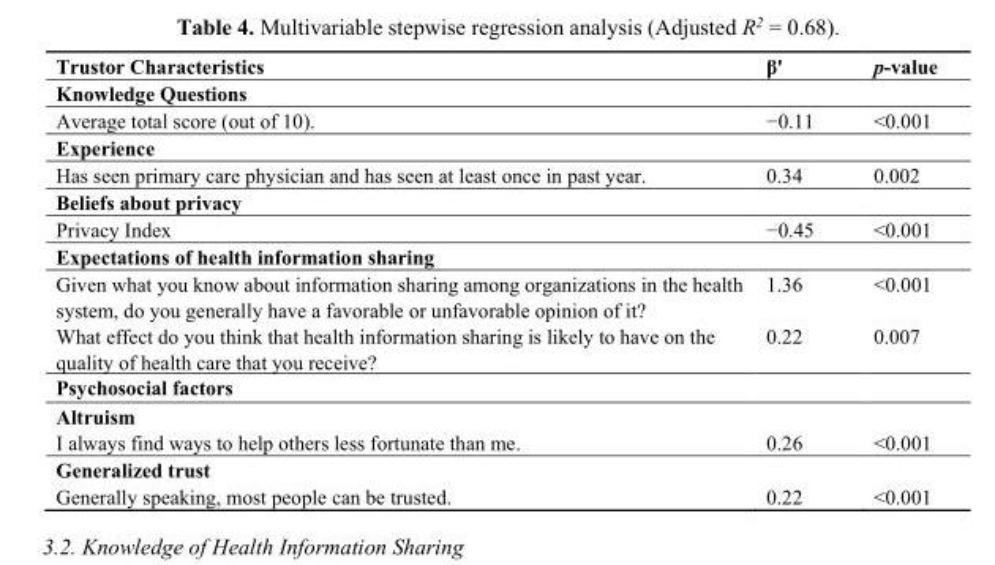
<table><thead><tr><td>Trustor Characteristics</td><td>β&#x27;</td><td>p-value</td></tr></thead><tbody><tr><td colspan="3">Knowledge Questions</td></tr><tr><td>Average total score (out of 10).</td><td>−0.11</td><td>&lt;0.001</td></tr><tr><td colspan="3">Experience</td></tr><tr><td>Has seen primary care physician and has seen at least once in past year.</td><td>0.34</td><td>0.002</td></tr><tr><td colspan="3">Beliefs about privacy</td></tr><tr><td>Privacy Index</td><td>−0.45</td><td>&lt;0.001</td></tr><tr><td colspan="3">Expectations of health information sharing</td></tr><tr><td>Given what you know about information sharing among organizations in the health system, do you generally have a favorable or unfavorable opinion of it?</td><td>1.36</td><td>&lt;0.001</td></tr><tr><td>What effect do you think that health information sharing is likely to have on the quality of health care that you receive?</td><td>0.22</td><td>0.007</td></tr><tr><td colspan="3">Psychosocial factors</td></tr><tr><td colspan="3">Altruism</td></tr><tr><td>I always find ways to help others less fortunate than me.</td><td>0.26</td><td>&lt;0.001</td></tr><tr><td colspan="3">Generalized trust</td></tr><tr><td>Generally speaking, most people can be trusted.</td><td>0.22</td><td>&lt;0.001</td></tr></tbody></table>